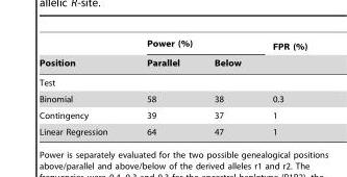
<table><thead><tr><td rowspan="2">Position</td><td colspan="2">Power (%)</td><td rowspan="2">FPR (%)</td></tr><tr><td>Parallel</td><td>Below</td></tr></thead><tbody><tr><td colspan="4">Test</td></tr><tr><td>Binomial</td><td>58</td><td>38</td><td>0.3</td></tr><tr><td>Contingency</td><td>39</td><td>37</td><td>1</td></tr><tr><td>Linear Regression</td><td>64</td><td>47</td><td>1</td></tr></tbody></table>